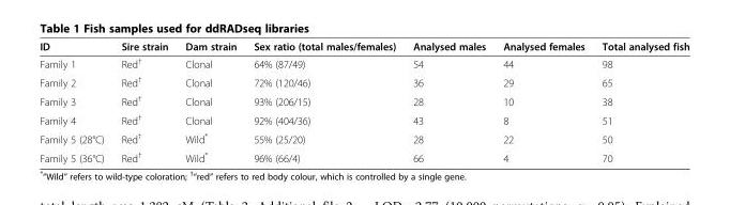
<table><thead><tr><td>ID</td><td>Sire strain</td><td>Dam strain</td><td>Sex ratio (total males/females)</td><td>Analysed males</td><td>Analysed females</td><td>Total analysed fish</td></tr></thead><tbody><tr><td>Family 1</td><td>Red<sup>†</sup></td><td>Clonal</td><td>64% (87/49)</td><td>54</td><td>44</td><td>98</td></tr><tr><td>Family 2</td><td>Red<sup>†</sup></td><td>Clonal</td><td>72% (120/46)</td><td>36</td><td>29</td><td>65</td></tr><tr><td>Family 3</td><td>Red<sup>†</sup></td><td>Clonal</td><td>93% (206/15)</td><td>28</td><td>10</td><td>38</td></tr><tr><td>Family 4</td><td>Red<sup>†</sup></td><td>Clonal</td><td>92% (404/36)</td><td>43</td><td>8</td><td>51</td></tr><tr><td>Family 5 (28°C)</td><td>Red<sup>†</sup></td><td>Wild*</td><td>55% (25/20)</td><td>28</td><td>22</td><td>50</td></tr><tr><td>Family 5 (36°C)</td><td>Red<sup>†</sup></td><td>Wild*</td><td>96% (66/4)</td><td>66</td><td>4</td><td>70</td></tr></tbody></table>